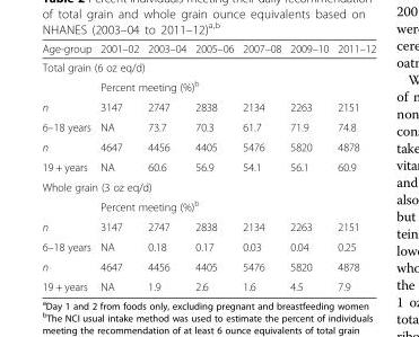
<table><thead><tr><td>Age-group</td><td>2001–02</td><td>2003–04</td><td>2005–06</td><td>2007–08</td><td>2009–10</td><td>2011–12</td></tr></thead><tbody><tr><td colspan="7">Total grain (6 oz eq/d)</td></tr><tr><td></td><td colspan="6">Percent meeting (%)<sup>b</sup></td></tr><tr><td>n</td><td>3147</td><td>2747</td><td>2838</td><td>2134</td><td>2263</td><td>2151</td></tr><tr><td>6–18 years</td><td>NA</td><td>73.7</td><td>70.3</td><td>61.7</td><td>71.9</td><td>74.8</td></tr><tr><td>n</td><td>4647</td><td>4456</td><td>4405</td><td>5476</td><td>5820</td><td>4878</td></tr><tr><td>19 + years</td><td>NA</td><td>60.6</td><td>56.9</td><td>54.1</td><td>56.1</td><td>60.9</td></tr><tr><td colspan="7">Whole grain (3 oz eq/d)</td></tr><tr><td></td><td colspan="6">Percent meeting (%)<sup>b</sup></td></tr><tr><td>n</td><td>3147</td><td>2747</td><td>2838</td><td>2134</td><td>2263</td><td>2151</td></tr><tr><td>6–18 years</td><td>NA</td><td>0.18</td><td>0.17</td><td>0.03</td><td>0.04</td><td>0.25</td></tr><tr><td>n</td><td>4647</td><td>4456</td><td>4405</td><td>5476</td><td>5820</td><td>4878</td></tr><tr><td>19 + years</td><td>NA</td><td>1.9</td><td>2.6</td><td>1.6</td><td>4.5</td><td>7.9</td></tr></tbody></table>